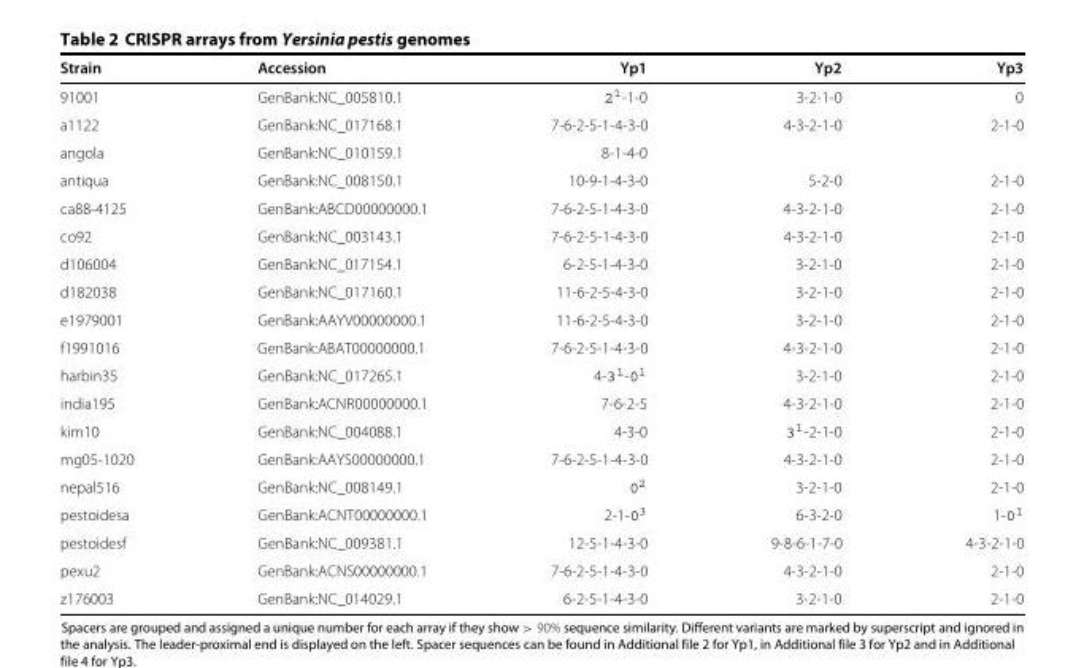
<table><thead><tr><td>Strain</td><td>Accession</td><td>Yp1</td><td>Yp2</td><td>Yp3</td></tr></thead><tbody><tr><td>91001</td><td>GenBank:NC_005810.1</td><td>2<sup>1</sup>-1-0</td><td>3-2-1-0</td><td>0</td></tr><tr><td>a1122</td><td>GenBank:NC_017168.1</td><td>7-6-2-5-1-4-3-0</td><td>4-3-2-1-0</td><td>2-1-0</td></tr><tr><td>angola</td><td>GenBank:NC_010159.1</td><td>8-1-4-0</td><td></td><td></td></tr><tr><td>antiqua</td><td>GenBank:NC_008150.1</td><td>10-9-1-4-3-0</td><td>5-2-0</td><td>2-1-0</td></tr><tr><td>ca88-4125</td><td>GenBank:ABCD00000000.1</td><td>7-6-2-5-1-4-3-0</td><td>4-3-2-1-0</td><td>2-1-0</td></tr><tr><td>co92</td><td>GenBank:NC_003143.1</td><td>7-6-2-5-1-4-3-0</td><td>4-3-2-1-0</td><td>2-1-0</td></tr><tr><td>d106004</td><td>GenBank:NC_017154.1</td><td>6-2-5-1-4-3-0</td><td>3-2-1-0</td><td>2-1-0</td></tr><tr><td>d182038</td><td>GenBank:NC_017160.1</td><td>11-6-2-5-4-3-0</td><td>3-2-1-0</td><td>2-1-0</td></tr><tr><td>e1979001</td><td>GenBank:AAYV00000000.1</td><td>11-6-2-5-4-3-0</td><td>3-2-1-0</td><td>2-1-0</td></tr><tr><td>f1991016</td><td>GenBank:ABAT00000000.1</td><td>7-6-2-5-1-4-3-0</td><td>4-3-2-1-0</td><td>2-1-0</td></tr><tr><td>harbin35</td><td>GenBank:NC_017265.1</td><td>4-3<sup>1</sup>-0<sup>1</sup></td><td>3-2-1-0</td><td>2-1-0</td></tr><tr><td>india195</td><td>GenBank:ACNR00000000.1</td><td>7-6-2-5</td><td>4-3-2-1-0</td><td>2-1-0</td></tr><tr><td>kim10</td><td>GenBank:NC_004088.1</td><td>4-3-0</td><td>3<sup>1</sup>-2-1-0</td><td>2-1-0</td></tr><tr><td>mg05-1020</td><td>GenBank:AAYS00000000.1</td><td>7-6-2-5-1-4-3-0</td><td>4-3-2-1-0</td><td>2-1-0</td></tr><tr><td>nepal516</td><td>GenBank:NC_008149.1</td><td>0<sup>2</sup></td><td>3-2-1-0</td><td>2-1-0</td></tr><tr><td>pestoidesa</td><td>GenBank:ACNT00000000.1</td><td>2-1-0<sup>3</sup></td><td>6-3-2-0</td><td>1-0<sup>1</sup></td></tr><tr><td>pestoidesf</td><td>GenBank:NC_009381.1</td><td>12-5-1-4-3-0</td><td>9-8-6-1-7-0</td><td>4-3-2-1-0</td></tr><tr><td>pexu2</td><td>GenBank:ACNS00000000.1</td><td>7-6-2-5-1-4-3-0</td><td>4-3-2-1-0</td><td>2-1-0</td></tr><tr><td>z176003</td><td>GenBank:NC_014029.1</td><td>6-2-5-1-4-3-0</td><td>3-2-1-0</td><td>2-1-0</td></tr></tbody></table>